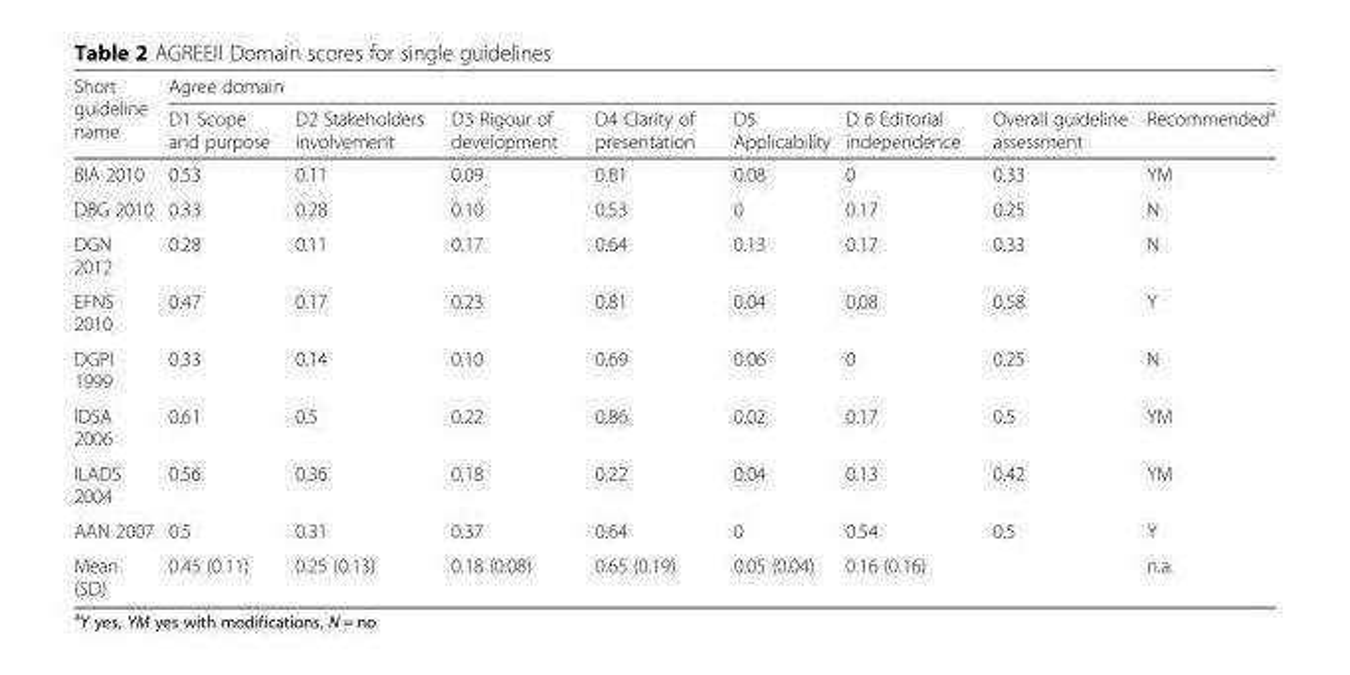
<table><thead><tr><td rowspan="2">Short guideline name</td><td colspan="8">Agree domain</td></tr><tr><td>D1 Scope and purpose</td><td>D2 Stakeholders involvement</td><td>D3 Rigour of development</td><td>D4 Clarity of presentation</td><td>D5 Applicability</td><td>D 6 Editorial independence</td><td>Overall guideline assessment</td><td>Recommended<sup>a</sup></td></tr></thead><tbody><tr><td>BIA 2010</td><td>0.53</td><td>0.11</td><td>0.09</td><td>0.81</td><td>0.08</td><td>0</td><td>0.33</td><td>YM</td></tr><tr><td>DBG 2010</td><td>0.33</td><td>0.28</td><td>0.10</td><td>0.53</td><td>0</td><td>0.17</td><td>0.25</td><td>N</td></tr><tr><td>DGN 2012</td><td>0.28</td><td>0.11</td><td>0.17</td><td>0.64</td><td>0.13</td><td>0.17</td><td>0.33</td><td>N</td></tr><tr><td>EFNS 2010</td><td>0.47</td><td>0.17</td><td>0.23</td><td>0.81</td><td>0.04</td><td>0.08</td><td>0.58</td><td>Y</td></tr><tr><td>DGPI 1999</td><td>0.33</td><td>0.14</td><td>0.10</td><td>0.69</td><td>0.06</td><td>0</td><td>0.25</td><td>N</td></tr><tr><td>IDSA 2006</td><td>0.61</td><td>0.5</td><td>0.22</td><td>0.86</td><td>0.02</td><td>0.17</td><td>0.5</td><td>YM</td></tr><tr><td>ILADS 2004</td><td>0.56</td><td>0.36</td><td>0.18</td><td>0.22</td><td>0.04</td><td>0.13</td><td>0.42</td><td>YM</td></tr><tr><td>AAN 2007</td><td>0.5</td><td>0.31</td><td>0.37</td><td>0.64</td><td>0</td><td>0.54</td><td>0.5</td><td>Y</td></tr><tr><td>Mean (SD)</td><td>0.45 (0.11)</td><td>0.25 (0.13)</td><td>0.18 (0.08)</td><td>0.65 (0.19)</td><td>0.05 (0.04)</td><td>0.16 (0.16)</td><td></td><td>n.a.</td></tr></tbody></table>